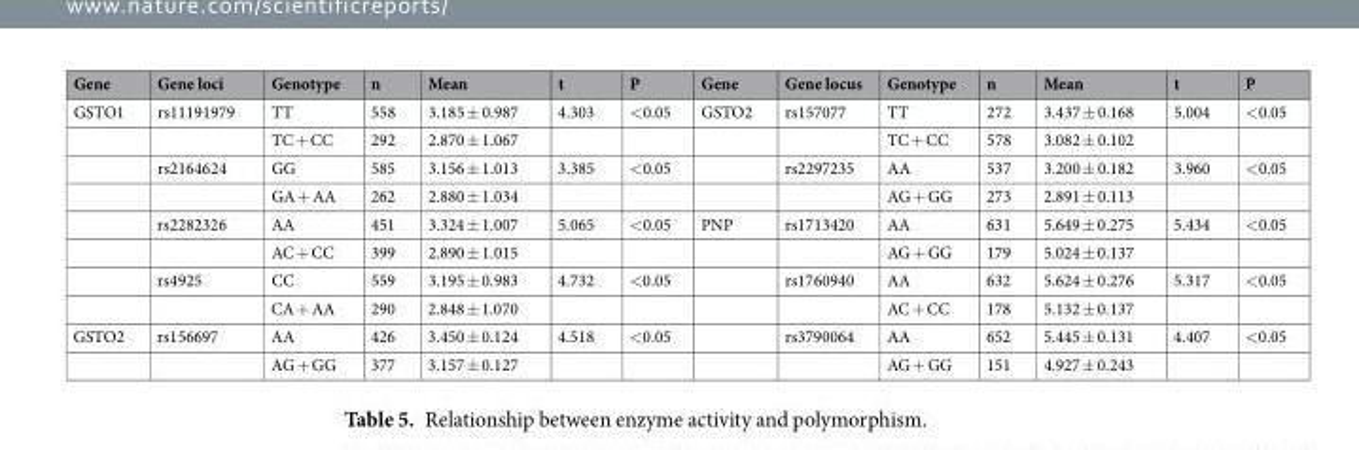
<table><thead><tr><td>Gene</td><td>Gene loci</td><td>Genotype</td><td>n</td><td>Mean</td><td>t</td><td>P</td><td>Gene</td><td>Gene locus</td><td>Genotype</td><td>n</td><td>Mean</td><td>t</td><td>P</td></tr></thead><tbody><tr><td rowspan="8">GSTO1</td><td>rs11191979</td><td>TT</td><td>558</td><td>3.185 ± 0.987</td><td>4.303</td><td>&lt;0.05</td><td>GSTO2</td><td>rs157077</td><td>TT</td><td>272</td><td>3.437 ± 0.168</td><td>5.004</td><td>&lt;0.05</td></tr><tr><td></td><td>TC + CC</td><td>292</td><td>2.870 ± 1.067</td><td></td><td></td><td></td><td></td><td>TC + CC</td><td>578</td><td>3.082 ± 0.102</td><td></td><td></td></tr><tr><td>rs2164624</td><td>GG</td><td>585</td><td>3.156 ± 1.013</td><td>3.385</td><td>&lt;0.05</td><td></td><td>rs2297235</td><td>AA</td><td>537</td><td>3.200 ± 0.182</td><td>3.960</td><td>&lt;0.05</td></tr><tr><td></td><td>GA + AA</td><td>262</td><td>2.880 ± 1.034</td><td></td><td></td><td></td><td></td><td>AG + GG</td><td>273</td><td>2.891 ± 0.113</td><td></td><td></td></tr><tr><td>rs2282326</td><td>AA</td><td>451</td><td>3.324 ± 1.007</td><td>5.065</td><td>&lt;0.05</td><td>PNP</td><td>rs1713420</td><td>AA</td><td>631</td><td>5.649 ± 0.275</td><td>5.434</td><td>&lt;0.05</td></tr><tr><td></td><td>AC + CC</td><td>399</td><td>2.890 ± 1.015</td><td></td><td></td><td></td><td></td><td>AG + GG</td><td>179</td><td>5.024 ± 0.137</td><td></td><td></td></tr><tr><td>rs4925</td><td>CC</td><td>559</td><td>3.195 ± 0.983</td><td>4.732</td><td>&lt;0.05</td><td></td><td>rs1760940</td><td>AA</td><td>632</td><td>5.624 ± 0.276</td><td>5.317</td><td>&lt;0.05</td></tr><tr><td></td><td>CA + AA</td><td>290</td><td>2.848 ± 1.070</td><td></td><td></td><td></td><td></td><td>AC + CC</td><td>178</td><td>5.132 ± 0.137</td><td></td><td></td></tr><tr><td rowspan="2">GSTO2</td><td>rs156697</td><td>AA</td><td>426</td><td>3.450 ± 0.124</td><td>4.518</td><td>&lt;0.05</td><td></td><td>rs3790064</td><td>AA</td><td>652</td><td>5.445 ± 0.131</td><td>4.407</td><td>&lt;0.05</td></tr><tr><td></td><td>AG + GG</td><td>377</td><td>3.157 ± 0.127</td><td></td><td></td><td></td><td></td><td>AG + GG</td><td>151</td><td>4.927 ± 0.243</td><td></td><td></td></tr></tbody></table>